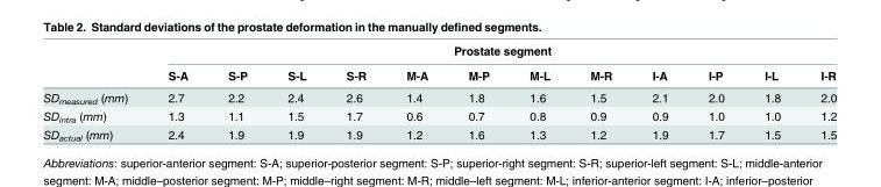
<table><thead><tr><td rowspan="2"></td><td colspan="12">Prostate segment</td></tr><tr><td>S-A</td><td>S-P</td><td>S-L</td><td>S-R</td><td>M-A</td><td>M-P</td><td>M-L</td><td>M-R</td><td>I-A</td><td>I-P</td><td>I-L</td><td>I-R</td></tr></thead><tbody><tr><td>SD<sub>measured</sub> (mm)</td><td>2.7</td><td>2.2</td><td>2.4</td><td>2.6</td><td>1.4</td><td>1.8</td><td>1.6</td><td>1.5</td><td>2.1</td><td>2.0</td><td>1.8</td><td>2.0</td></tr><tr><td>SD<sub>intra</sub> (mm)</td><td>1.3</td><td>1.1</td><td>1.5</td><td>1.7</td><td>0.6</td><td>0.7</td><td>0.8</td><td>0.9</td><td>0.9</td><td>1.0</td><td>1.0</td><td>1.2</td></tr><tr><td>SD<sub>actual</sub> (mm)</td><td>2.4</td><td>1.9</td><td>1.9</td><td>1.9</td><td>1.2</td><td>1.6</td><td>1.3</td><td>1.2</td><td>1.9</td><td>1.7</td><td>1.5</td><td>1.5</td></tr></tbody></table>